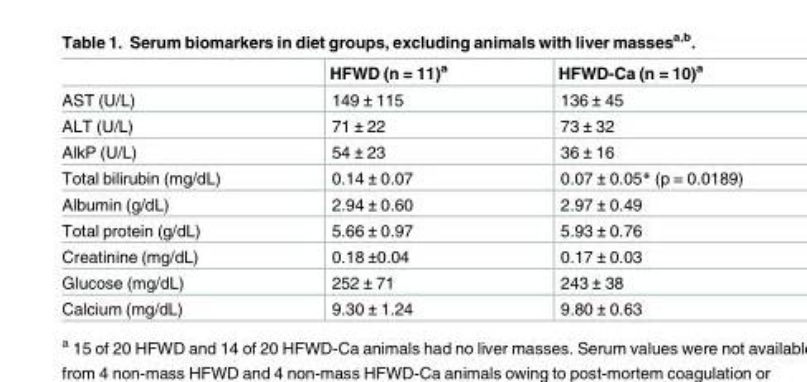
<table><thead><tr><td></td><td>HFWD (n = 11)<sup>a</sup></td><td>HFWD-Ca (n = 10)<sup>a</sup></td></tr></thead><tbody><tr><td>AST (U/L)</td><td>149 ± 115</td><td>136 ± 45</td></tr><tr><td>ALT (U/L)</td><td>71 ± 22</td><td>73 ± 32</td></tr><tr><td>AlkP (U/L)</td><td>54 ± 23</td><td>36 ± 16</td></tr><tr><td>Total bilirubin (mg/dL)</td><td>0.14 ± 0.07</td><td>0.07 ± 0.05* (p = 0.0189)</td></tr><tr><td>Albumin (g/dL)</td><td>2.94 ± 0.60</td><td>2.97 ± 0.49</td></tr><tr><td>Total protein (g/dL)</td><td>5.66 ± 0.97</td><td>5.93 ± 0.76</td></tr><tr><td>Creatinine (mg/dL)</td><td>0.18 ±0.04</td><td>0.17 ± 0.03</td></tr><tr><td>Glucose (mg/dL)</td><td>252 ± 71</td><td>243 ± 38</td></tr><tr><td>Calcium (mg/dL)</td><td>9.30 ± 1.24</td><td>9.80 ± 0.63</td></tr></tbody></table>